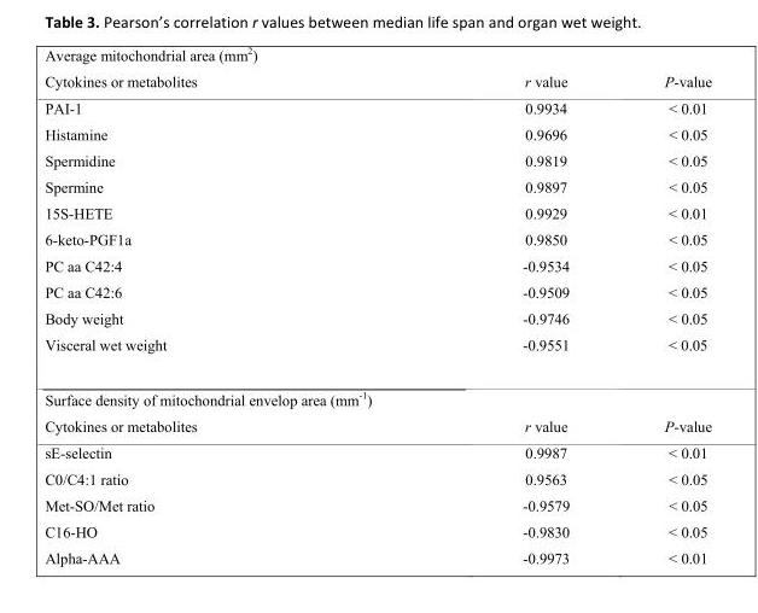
<table><tbody><tr><td colspan="3">Average mitochondrial area (mm<sup>2</sup>)</td></tr><tr><td>Cytokines or metabolites</td><td>r value</td><td>P-value</td></tr><tr><td>PAI-1</td><td>0.9934</td><td>&lt; 0.01</td></tr><tr><td>Histamine</td><td>0.9696</td><td>&lt; 0.05</td></tr><tr><td>Spermidine</td><td>0.9819</td><td>&lt; 0.05</td></tr><tr><td>Spermine</td><td>0.9897</td><td>&lt; 0.05</td></tr><tr><td>15S-HETE</td><td>0.9929</td><td>&lt; 0.01</td></tr><tr><td>6-keto-PGF1a</td><td>0.9850</td><td>&lt; 0.05</td></tr><tr><td>PC aa C42:4</td><td>-0.9534</td><td>&lt; 0.05</td></tr><tr><td>PC aa C42:6</td><td>-0.9509</td><td>&lt; 0.05</td></tr><tr><td>Body weight</td><td>-0.9746</td><td>&lt; 0.05</td></tr><tr><td>Visceral wet weight</td><td>-0.9551</td><td>&lt; 0.05</td></tr><tr><td colspan="3">Surface density of mitochondrial envelop area (mm<sup>-1</sup>)</td></tr><tr><td>Cytokines or metabolites</td><td>r value</td><td>P-value</td></tr><tr><td>sE-selectin</td><td>0.9987</td><td>&lt; 0.01</td></tr><tr><td>C0/C4:1 ratio</td><td>0.9563</td><td>&lt; 0.05</td></tr><tr><td>Met-SO/Met ratio</td><td>-0.9579</td><td>&lt; 0.05</td></tr><tr><td>C16-HO</td><td>-0.9830</td><td>&lt; 0.05</td></tr><tr><td>Alpha-AAA</td><td>-0.9973</td><td>&lt; 0.01</td></tr></tbody></table>